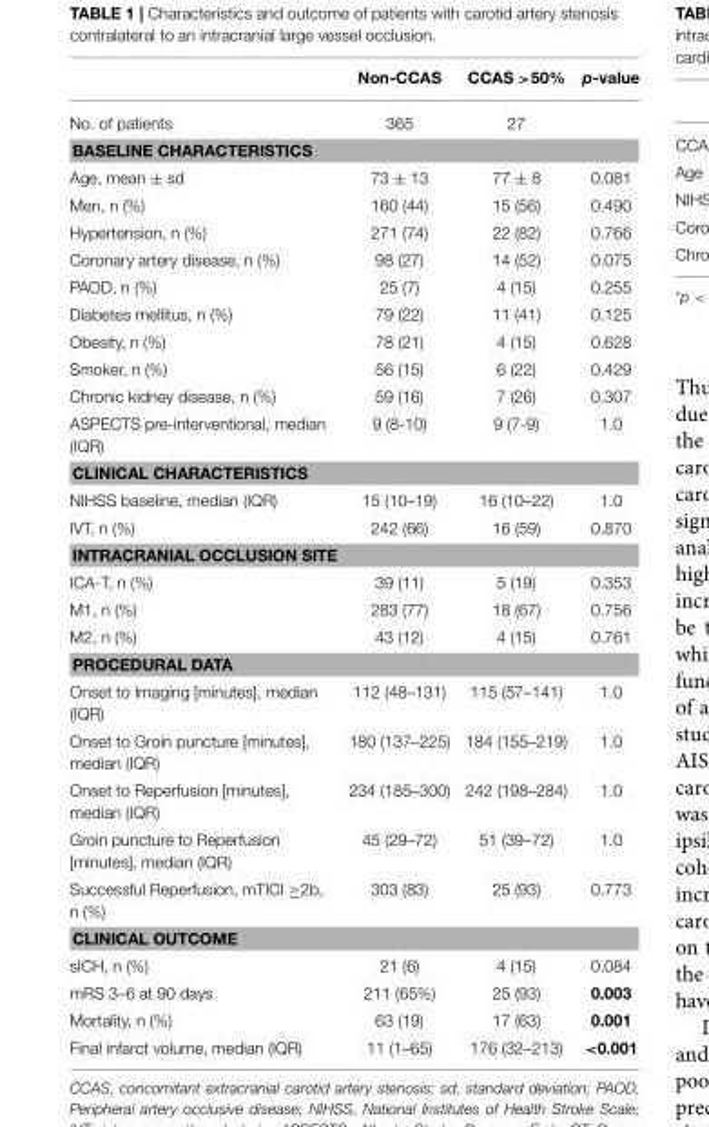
<table><thead><tr><td></td><td>Non-CCAS</td><td>CCAS &gt;50%</td><td>p-value</td></tr></thead><tbody><tr><td>No. of patients</td><td>365</td><td>27</td><td></td></tr><tr><td colspan="4">BASELINE CHARACTERISTICS</td></tr><tr><td>Age, mean ± sd</td><td>73 ± 13</td><td>77 ± 8</td><td>0.081</td></tr><tr><td>Men, n (%)</td><td>160 (44)</td><td>15 (56)</td><td>0.490</td></tr><tr><td>Hypertension, n (%)</td><td>271 (74)</td><td>22 (82)</td><td>0.766</td></tr><tr><td>Coronary artery disease, n (%)</td><td>98 (27)</td><td>14 (52)</td><td>0.075</td></tr><tr><td>PAOD, n (%)</td><td>25 (7)</td><td>4 (15)</td><td>0.255</td></tr><tr><td>Diabetes mellitus, n (%)</td><td>79 (22)</td><td>11 (41)</td><td>0.125</td></tr><tr><td>Obesity, n (%)</td><td>78 (21)</td><td>4 (15)</td><td>0.628</td></tr><tr><td>Smoker, n (%)</td><td>56 (15)</td><td>6 (22)</td><td>0.429</td></tr><tr><td>Chronic kidney disease, n (%)</td><td>59 (16)</td><td>7 (26)</td><td>0.307</td></tr><tr><td>ASPECTS pre-interventional, median (IQR)</td><td>9 (8-10)</td><td>9 (7-9)</td><td>1.0</td></tr><tr><td colspan="4">CLINICAL CHARACTERISTICS</td></tr><tr><td>NIHSS baseline, median (IQR)</td><td>15 (10–19)</td><td>16 (10–22)</td><td>1.0</td></tr><tr><td>IVT, n (%)</td><td>242 (66)</td><td>16 (59)</td><td>0.870</td></tr><tr><td colspan="4">INTRACRANIAL OCCLUSION SITE</td></tr><tr><td>ICA-T, n (%)</td><td>39 (11)</td><td>5 (19)</td><td>0.353</td></tr><tr><td>M1, n (%)</td><td>283 (77)</td><td>18 (67)</td><td>0.756</td></tr><tr><td>M2, n (%)</td><td>43 (12)</td><td>4 (15)</td><td>0.761</td></tr><tr><td colspan="4">PROCEDURAL DATA</td></tr><tr><td>Onset to Imaging [minutes], median (IQR)</td><td>112 (48–131)</td><td>115 (57–141)</td><td>1.0</td></tr><tr><td>Onset to Groin puncture [minutes], median (IQR)</td><td>180 (137–225)</td><td>184 (155–219)</td><td>1.0</td></tr><tr><td>Onset to Reperfusion [minutes], median (IQR)</td><td>234 (185–300)</td><td>242 (198–284)</td><td>1.0</td></tr><tr><td>Groin puncture to Reperfusion [minutes], median (IQR)</td><td>45 (29–72)</td><td>51 (39–72)</td><td>1.0</td></tr><tr><td>Successful Reperfusion, mTICI ≥2b, n (%)</td><td>303 (83)</td><td>25 (93)</td><td>0.773</td></tr><tr><td colspan="4">CLINICAL OUTCOME</td></tr><tr><td>sICH, n (%)</td><td>21 (6)</td><td>4 (15)</td><td>0.084</td></tr><tr><td>mRS 3–6 at 90 days</td><td>211 (65%)</td><td>25 (93)</td><td>0.003</td></tr><tr><td>Mortality, n (%)</td><td>63 (19)</td><td>17 (63)</td><td>0.001</td></tr><tr><td>Final infarct volume, median (IQR)</td><td>11 (1–65)</td><td>176 (32–213)</td><td>&lt;0.001</td></tr></tbody></table>